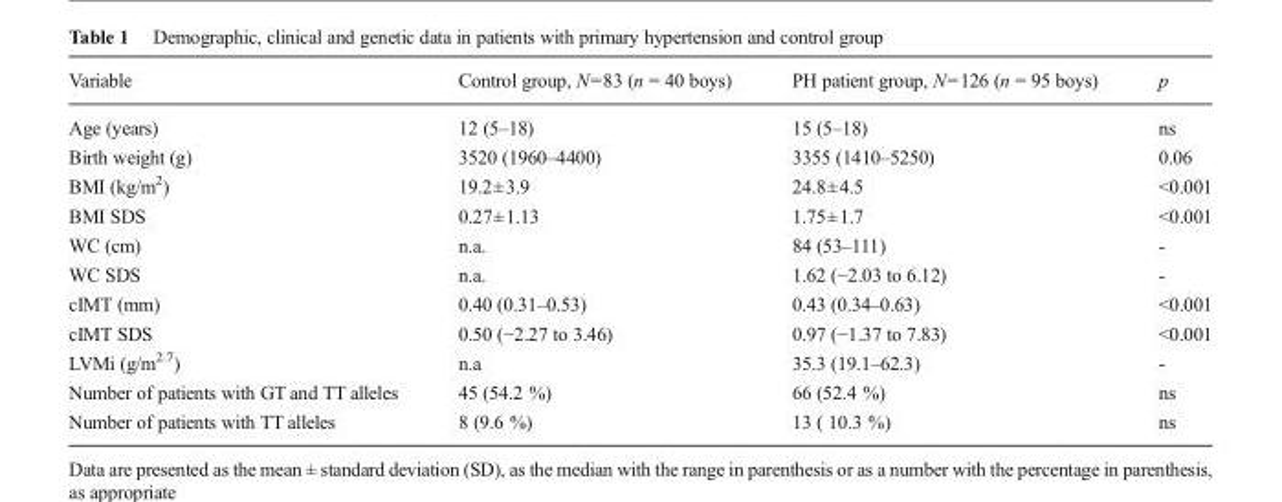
<table><thead><tr><td>Variable</td><td>Control group, N=83 (n = 40 boys)</td><td>PH patient group, N=126 (n = 95 boys)</td><td>p</td></tr></thead><tbody><tr><td>Age (years)</td><td>12 (5–18)</td><td>15 (5–18)</td><td>ns</td></tr><tr><td>Birth weight (g)</td><td>3520 (1960–4400)</td><td>3355 (1410–5250)</td><td>0.06</td></tr><tr><td>BMI (kg/m<sup>2</sup>)</td><td>19.2±3.9</td><td>24.8±4.5</td><td>&lt;0.001</td></tr><tr><td>BMI SDS</td><td>0.27±1.13</td><td>1.75±1.7</td><td>&lt;0.001</td></tr><tr><td>WC (cm)</td><td>n.a.</td><td>84 (53–111)</td><td>-</td></tr><tr><td>WC SDS</td><td>n.a.</td><td>1.62 (−2.03 to 6.12)</td><td>-</td></tr><tr><td>cIMT (mm)</td><td>0.40 (0.31–0.53)</td><td>0.43 (0.34–0.63)</td><td>&lt;0.001</td></tr><tr><td>cIMT SDS</td><td>0.50 (−2.27 to 3.46)</td><td>0.97 (−1.37 to 7.83)</td><td>&lt;0.001</td></tr><tr><td>LVMi (g/m<sup>2.7</sup>)</td><td>n.a</td><td>35.3 (19.1–62.3)</td><td>-</td></tr><tr><td>Number of patients with GT and TT alleles</td><td>45 (54.2 %)</td><td>66 (52.4 %)</td><td>ns</td></tr><tr><td>Number of patients with TT alleles</td><td>8 (9.6 %)</td><td>13 ( 10.3 %)</td><td>ns</td></tr></tbody></table>